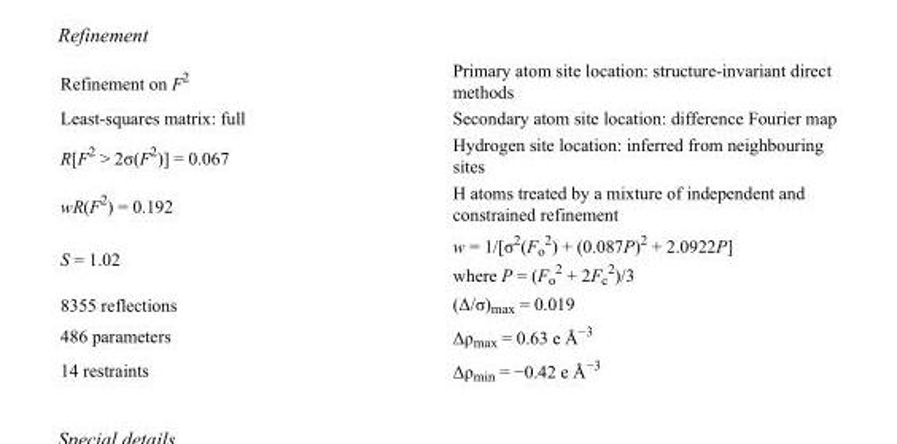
<table><tbody><tr><td>Refinement on F<sup>2</sup></td><td>Primary atom site location: structure-invariant direct methods</td></tr><tr><td>Least-squares matrix: full</td><td>Secondary atom site location: difference Fourier map</td></tr><tr><td>R[F<sup>2</sup> &gt; 2σ(F<sup>2</sup>)] = 0.067</td><td>Hydrogen site location: inferred from neighbouring sites</td></tr><tr><td>wR(F<sup>2</sup>) = 0.192</td><td>H atoms treated by a mixture of independent and constrained refinement</td></tr><tr><td>S = 1.02</td><td>w = 1/[σ<sup>2</sup>(F<sub>o</sub> <sup>2</sup>) + (0.087P)<sup>2</sup> + 2.0922P] where P = (F<sub>o</sub> <sup>2</sup> + 2F<sub>c</sub> <sup>2</sup>)/3</td></tr><tr><td>8355 reflections</td><td>(Δ/σ)<sub>max</sub> = 0.019</td></tr><tr><td>486 parameters</td><td>Δρ<sub>max</sub> = 0.63 e Å<sup>−3</sup></td></tr><tr><td>14 restraints</td><td>Δρ<sub>min</sub> = −0.42 e Å<sup>−3</sup></td></tr></tbody></table>